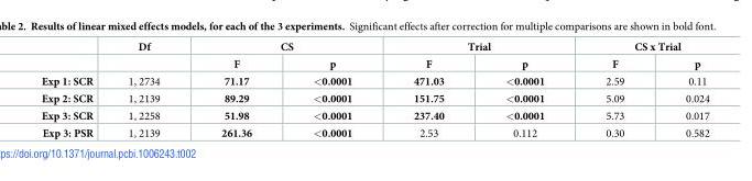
<table><thead><tr><td rowspan="2"></td><td rowspan="2">Df</td><td colspan="2">CS</td><td colspan="2">Trial</td><td colspan="2">CS x Trial</td></tr><tr><td>F</td><td>p</td><td>F</td><td>p</td><td>F</td><td>p</td></tr></thead><tbody><tr><td>Exp 1: SCR</td><td>1, 2734</td><td>71.17</td><td>&lt;0.0001</td><td>471.03</td><td>&lt;0.0001</td><td>2.59</td><td>0.11</td></tr><tr><td>Exp 2: SCR</td><td>1, 2139</td><td>89.29</td><td>&lt;0.0001</td><td>151.75</td><td>&lt;0.0001</td><td>5.09</td><td>0.024</td></tr><tr><td>Exp 3: SCR</td><td>1, 2258</td><td>51.98</td><td>&lt;0.0001</td><td>237.40</td><td>&lt;0.0001</td><td>5.73</td><td>0.017</td></tr><tr><td>Exp 3: PSR</td><td>1, 2139</td><td>261.36</td><td>&lt;0.0001</td><td>2.53</td><td>0.112</td><td>0.30</td><td>0.582</td></tr></tbody></table>